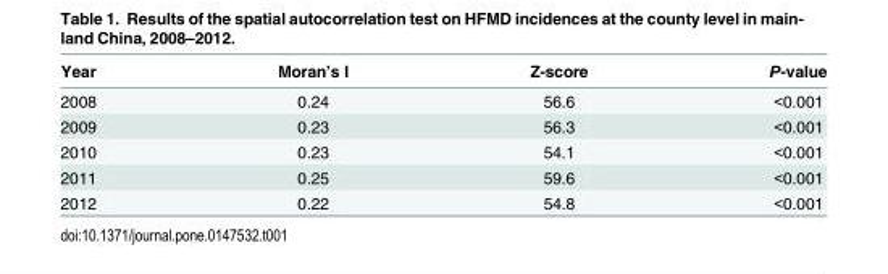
<table><thead><tr><td>Year</td><td>Moran’s I</td><td>Z-score</td><td>P-value</td></tr></thead><tbody><tr><td>2008</td><td>0.24</td><td>56.6</td><td>&lt;0.001</td></tr><tr><td>2009</td><td>0.23</td><td>56.3</td><td>&lt;0.001</td></tr><tr><td>2010</td><td>0.23</td><td>54.1</td><td>&lt;0.001</td></tr><tr><td>2011</td><td>0.25</td><td>59.6</td><td>&lt;0.001</td></tr><tr><td>2012</td><td>0.22</td><td>54.8</td><td>&lt;0.001</td></tr></tbody></table>